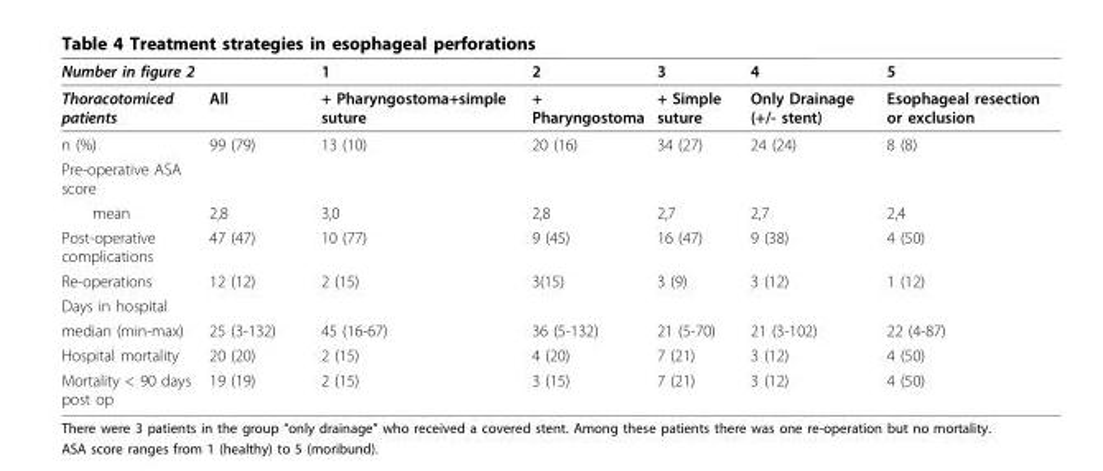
<table><thead><tr><td>Number in figure 2</td><td></td><td>1</td><td>2</td><td>3</td><td>4</td><td>5</td></tr></thead><tbody><tr><td>Thoracotomiced patients</td><td>All</td><td>+ Pharyngostoma+simple suture</td><td>+ Pharyngostoma</td><td>+ Simple suture</td><td>Only Drainage (+/- stent)</td><td>Esophageal resection or exclusion</td></tr><tr><td>n (%)</td><td>99 (79)</td><td>13 (10)</td><td>20 (16)</td><td>34 (27)</td><td>24 (24)</td><td>8 (8)</td></tr><tr><td colspan="7">Pre-operative ASA score</td></tr><tr><td>mean</td><td>2,8</td><td>3,0</td><td>2,8</td><td>2,7</td><td>2,7</td><td>2,4</td></tr><tr><td>Post-operative complications</td><td>47 (47)</td><td>10 (77)</td><td>9 (45)</td><td>16 (47)</td><td>9 (38)</td><td>4 (50)</td></tr><tr><td>Re-operations</td><td>12 (12)</td><td>2 (15)</td><td>3(15)</td><td>3 (9)</td><td>3 (12)</td><td>1 (12)</td></tr><tr><td colspan="7">Days in hospital</td></tr><tr><td>median (min-max)</td><td>25 (3-132)</td><td>45 (16-67)</td><td>36 (5-132)</td><td>21 (5-70)</td><td>21 (3-102)</td><td>22 (4-87)</td></tr><tr><td>Hospital mortality</td><td>20 (20)</td><td>2 (15)</td><td>4 (20)</td><td>7 (21)</td><td>3 (12)</td><td>4 (50)</td></tr><tr><td>Mortality &lt; 90 days post op</td><td>19 (19)</td><td>2 (15)</td><td>3 (15)</td><td>7 (21)</td><td>3 (12)</td><td>4 (50)</td></tr></tbody></table>